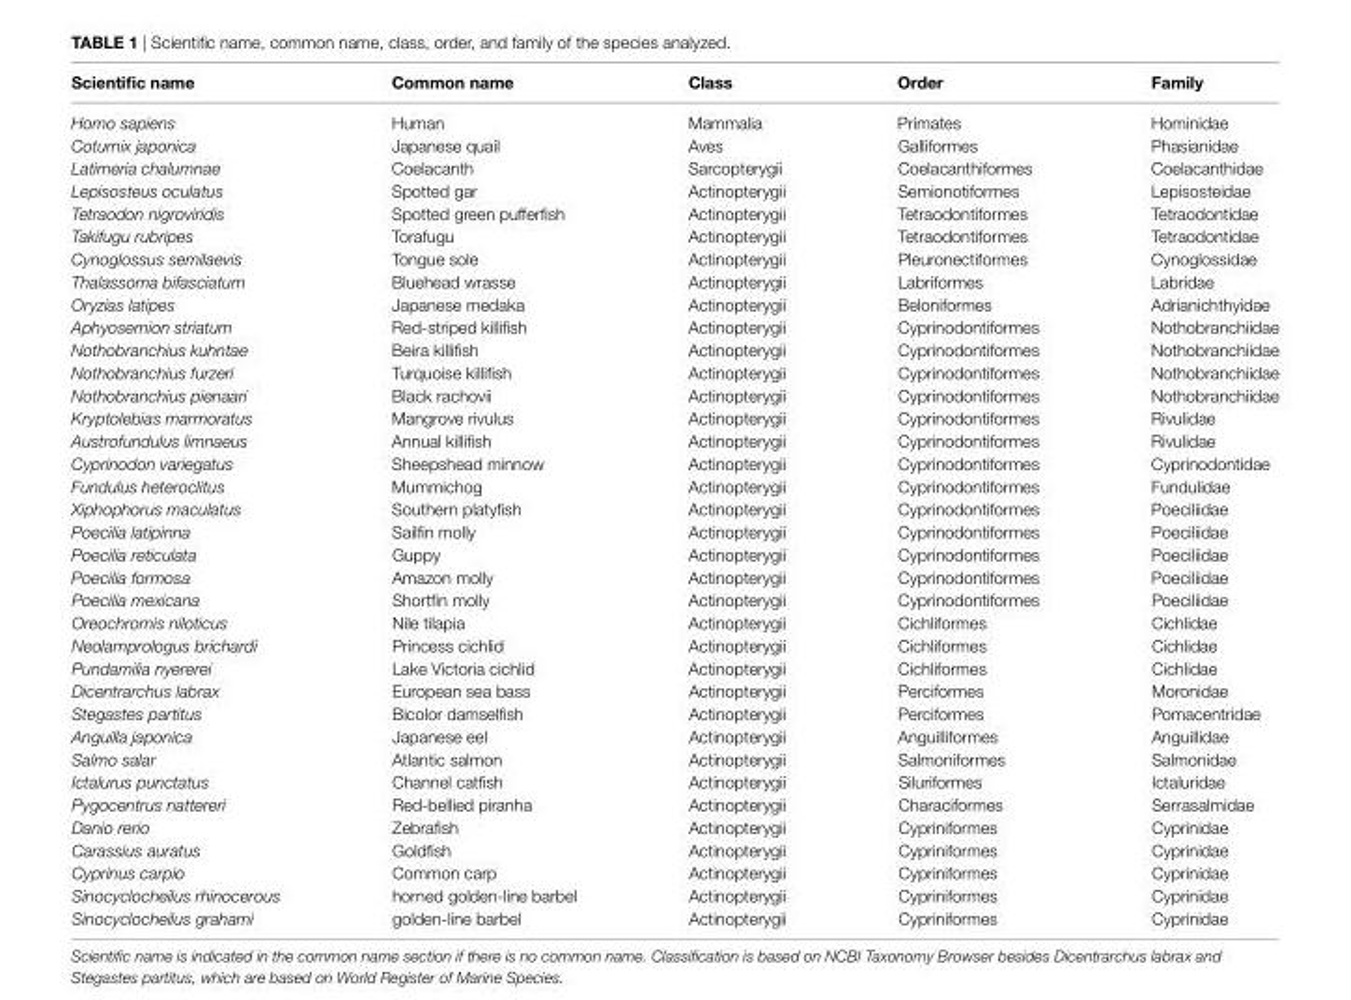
<table><thead><tr><td>Scientific name</td><td>Common name</td><td>Class</td><td>Order</td><td>Family</td></tr></thead><tbody><tr><td>Homo sapiens</td><td>Human</td><td>Mammalia</td><td>Primates</td><td>Hominidae</td></tr><tr><td>Coturnix japonica</td><td>Japanese quail</td><td>Aves</td><td>Galliformes</td><td>Phasianidae</td></tr><tr><td>Latimeria chalumnae</td><td>Coelacanth</td><td>Sarcopterygii</td><td>Coelacanthiformes</td><td>Coelacanthidae</td></tr><tr><td>Lepisosteus oculatus</td><td>Spotted gar</td><td>Actinopterygii</td><td>Semionotiformes</td><td>Lepisosteidae</td></tr><tr><td>Tetraodon nigroviridis</td><td>Spotted green pufferfish</td><td>Actinopterygii</td><td>Tetraodontiformes</td><td>Tetraodontidae</td></tr><tr><td>Takifugu rubripes</td><td>Torafugu</td><td>Actinopterygii</td><td>Tetraodontiformes</td><td>Tetraodontidae</td></tr><tr><td>Cynoglossus semilaevis</td><td>Tongue sole</td><td>Actinopterygii</td><td>Pleuronectiformes</td><td>Cynoglossidae</td></tr><tr><td>Thalassoma bifasciatum</td><td>Bluehead wrasse</td><td>Actinopterygii</td><td>Labriformes</td><td>Labridae</td></tr><tr><td>Oryzias latipes</td><td>Japanese medaka</td><td>Actinopterygii</td><td>Beloniformes</td><td>Adrianichthyidae</td></tr><tr><td>Aphyosemion striatum</td><td>Red-striped killifish</td><td>Actinopterygii</td><td>Cyprinodontiformes</td><td>Nothobranchiidae</td></tr><tr><td>Nothobranchius kuhntae</td><td>Beira killifish</td><td>Actinopterygii</td><td>Cyprinodontiformes</td><td>Nothobranchiidae</td></tr><tr><td>Nothobranchius furzeri</td><td>Turquoise killifish</td><td>Actinopterygii</td><td>Cyprinodontiformes</td><td>Nothobranchiidae</td></tr><tr><td>Nothobranchius pienaari</td><td>Black rachovii</td><td>Actinopterygii</td><td>Cyprinodontiformes</td><td>Nothobranchiidae</td></tr><tr><td>Kryptolebias marmoratus</td><td>Mangrove rivulus</td><td>Actinopterygii</td><td>Cyprinodontiformes</td><td>Rivulidae</td></tr><tr><td>Austrofundulus limnaeus</td><td>Annual killifish</td><td>Actinopterygii</td><td>Cyprinodontiformes</td><td>Rivulidae</td></tr><tr><td>Cyprinodon variegatus</td><td>Sheepshead minnow</td><td>Actinopterygii</td><td>Cyprinodontiformes</td><td>Cyprinodontidae</td></tr><tr><td>Fundulus heteroclitus</td><td>Mummichog</td><td>Actinopterygii</td><td>Cyprinodontiformes</td><td>Fundulidae</td></tr><tr><td>Xiphophorus maculatus</td><td>Southern platyfish</td><td>Actinopterygii</td><td>Cyprinodontiformes</td><td>Poeciliidae</td></tr><tr><td>Poecilia latipinna</td><td>Sailfin molly</td><td>Actinopterygii</td><td>Cyprinodontiformes</td><td>Poeciliidae</td></tr><tr><td>Poecilia reticulata</td><td>Guppy</td><td>Actinopterygii</td><td>Cyprinodontiformes</td><td>Poeciliidae</td></tr><tr><td>Poecilia formosa</td><td>Amazon molly</td><td>Actinopterygii</td><td>Cyprinodontiformes</td><td>Poeciliidae</td></tr><tr><td>Poecilia mexicana</td><td>Shortfin molly</td><td>Actinopterygii</td><td>Cyprinodontiformes</td><td>Poeciliidae</td></tr><tr><td>Oreochromis niloticus</td><td>Nile tilapia</td><td>Actinopterygii</td><td>Cichliformes</td><td>Cichlidae</td></tr><tr><td>Neolamprologus brichardi</td><td>Princess cichlid</td><td>Actinopterygii</td><td>Cichliformes</td><td>Cichlidae</td></tr><tr><td>Pundamilia nyererei</td><td>Lake Victoria cichlid</td><td>Actinopterygii</td><td>Cichliformes</td><td>Cichlidae</td></tr><tr><td>Dicentrarchus labrax</td><td>European sea bass</td><td>Actinopterygii</td><td>Perciformes</td><td>Moronidae</td></tr><tr><td>Stegastes partitus</td><td>Bicolor damselfish</td><td>Actinopterygii</td><td>Perciformes</td><td>Pomacentridae</td></tr><tr><td>Anguilla japonica</td><td>Japanese eel</td><td>Actinopterygii</td><td>Anguilliformes</td><td>Anguillidae</td></tr><tr><td>Salmo salar</td><td>Atlantic salmon</td><td>Actinopterygii</td><td>Salmoniformes</td><td>Salmonidae</td></tr><tr><td>Ictalurus punctatus</td><td>Channel catfish</td><td>Actinopterygii</td><td>Siluriformes</td><td>Ictaluridae</td></tr><tr><td>Pygocentrus nattereri</td><td>Red-bellied piranha</td><td>Actinopterygii</td><td>Characiformes</td><td>Serrasalmidae</td></tr><tr><td>Danio rerio</td><td>Zebrafish</td><td>Actinopterygii</td><td>Cypriniformes</td><td>Cyprinidae</td></tr><tr><td>Carassius auratus</td><td>Goldfish</td><td>Actinopterygii</td><td>Cypriniformes</td><td>Cyprinidae</td></tr><tr><td>Cyprinus carpio</td><td>Common carp</td><td>Actinopterygii</td><td>Cypriniformes</td><td>Cyprinidae</td></tr><tr><td>Sinocyclocheilus rhinocerous</td><td>horned golden-line barbel</td><td>Actinopterygii</td><td>Cypriniformes</td><td>Cyprinidae</td></tr><tr><td>Sinocyclocheilus grahami</td><td>golden-line barbel</td><td>Actinopterygii</td><td>Cypriniformes</td><td>Cyprinidae</td></tr></tbody></table>